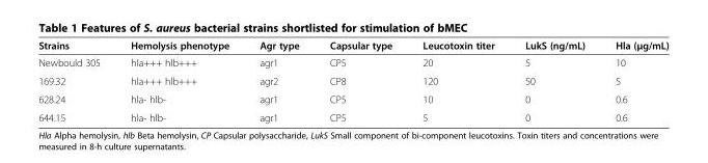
<table><thead><tr><td>Strains</td><td>Hemolysis phenotype</td><td>Agr type</td><td>Capsular type</td><td>Leucotoxin titer</td><td>LukS (ng/mL)</td><td>Hla (μg/mL)</td></tr></thead><tbody><tr><td>Newbould 305</td><td>hla+++ hlb+++</td><td>agr1</td><td>CP5</td><td>20</td><td>5</td><td>10</td></tr><tr><td>169.32</td><td>hla+++ hlb+++</td><td>agr2</td><td>CP8</td><td>120</td><td>50</td><td>5</td></tr><tr><td>628.24</td><td>hla- hlb-</td><td>agr1</td><td>CP5</td><td>10</td><td>0</td><td>0.6</td></tr><tr><td>644.15</td><td>hla- hlb-</td><td>agr1</td><td>CP5</td><td>5</td><td>0</td><td>0.6</td></tr></tbody></table>